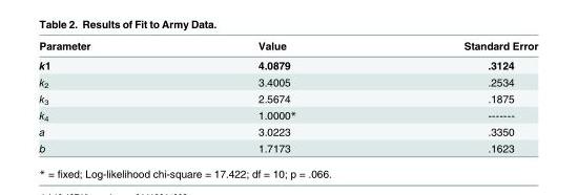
<table><thead><tr><td>Parameter</td><td>Value</td><td>Standard Error</td></tr></thead><tbody><tr><td>k1</td><td>4.0879</td><td>.3124</td></tr><tr><td>k<sub>2</sub></td><td>3.4005</td><td>.2534</td></tr><tr><td>k<sub>3</sub></td><td>2.5674</td><td>.1875</td></tr><tr><td>k<sub>4</sub></td><td>1.0000*</td><td>-------</td></tr><tr><td>a</td><td>3.0223</td><td>.3350</td></tr><tr><td>b</td><td>1.7173</td><td>.1623</td></tr></tbody></table>